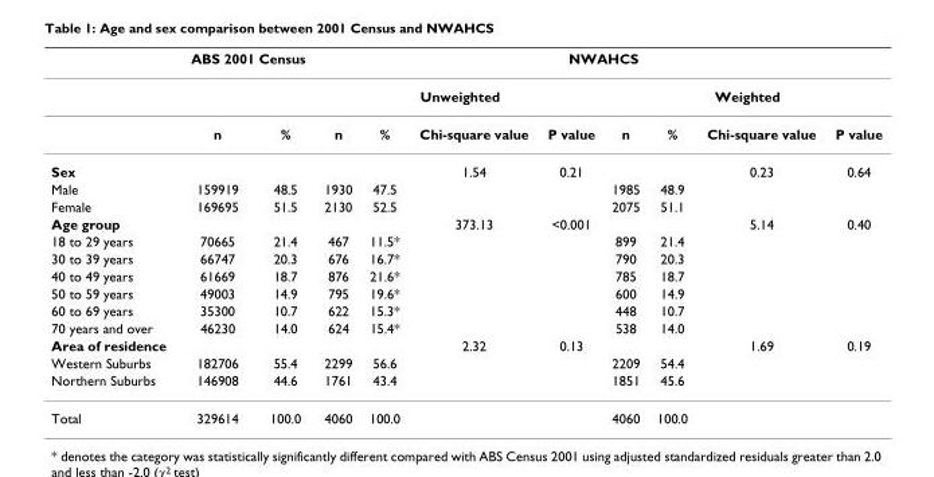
<table><thead><tr><td rowspan="3"></td><td colspan="2">ABS 2001 Census</td><td colspan="8">NWAHCS</td></tr><tr><td rowspan="2">n</td><td rowspan="2">%</td><td colspan="4">Unweighted</td><td colspan="4">Weighted</td></tr><tr><td>n</td><td>%</td><td>Chi-square value</td><td>P value</td><td>n</td><td>%</td><td>Chi-square value</td><td>P value</td></tr></thead><tbody><tr><td>Sex</td><td></td><td></td><td></td><td></td><td>1.54</td><td>0.21</td><td></td><td></td><td>0.23</td><td>0.64</td></tr><tr><td>Male</td><td>159919</td><td>48.5</td><td>1930</td><td>47.5</td><td></td><td></td><td>1985</td><td>48.9</td><td></td><td></td></tr><tr><td>Female</td><td>169695</td><td>51.5</td><td>2130</td><td>52.5</td><td></td><td></td><td>2075</td><td>51.1</td><td></td><td></td></tr><tr><td>Age group</td><td></td><td></td><td></td><td></td><td>373.13</td><td>&lt;0.001</td><td></td><td></td><td>5.14</td><td>0.40</td></tr><tr><td>18 to 29 years</td><td>70665</td><td>21.4</td><td>467</td><td>11.5*</td><td></td><td></td><td>899</td><td>21.4</td><td></td><td></td></tr><tr><td>30 to 39 years</td><td>66747</td><td>20.3</td><td>676</td><td>16.7*</td><td></td><td></td><td>790</td><td>20.3</td><td></td><td></td></tr><tr><td>40 to 49 years</td><td>61669</td><td>18.7</td><td>876</td><td>21.6*</td><td></td><td></td><td>785</td><td>18.7</td><td></td><td></td></tr><tr><td>50 to 59 years</td><td>49003</td><td>14.9</td><td>795</td><td>19.6*</td><td></td><td></td><td>600</td><td>14.9</td><td></td><td></td></tr><tr><td>60 to 69 years</td><td>35300</td><td>10.7</td><td>622</td><td>15.3*</td><td></td><td></td><td>448</td><td>10.7</td><td></td><td></td></tr><tr><td>70 years and over</td><td>46230</td><td>14.0</td><td>624</td><td>15.4*</td><td></td><td></td><td>538</td><td>14.0</td><td></td><td></td></tr><tr><td>Area of residence</td><td></td><td></td><td></td><td></td><td>2.32</td><td>0.13</td><td></td><td></td><td>1.69</td><td>0.19</td></tr><tr><td>Western Suburbs</td><td>182706</td><td>55.4</td><td>2299</td><td>56.6</td><td></td><td></td><td>2209</td><td>54.4</td><td></td><td></td></tr><tr><td>Northern Suburbs</td><td>146908</td><td>44.6</td><td>1761</td><td>43.4</td><td></td><td></td><td>1851</td><td>45.6</td><td></td><td></td></tr><tr><td>Total</td><td>329614</td><td>100.0</td><td>4060</td><td>100.0</td><td></td><td></td><td>4060</td><td>100.0</td><td></td><td></td></tr></tbody></table>